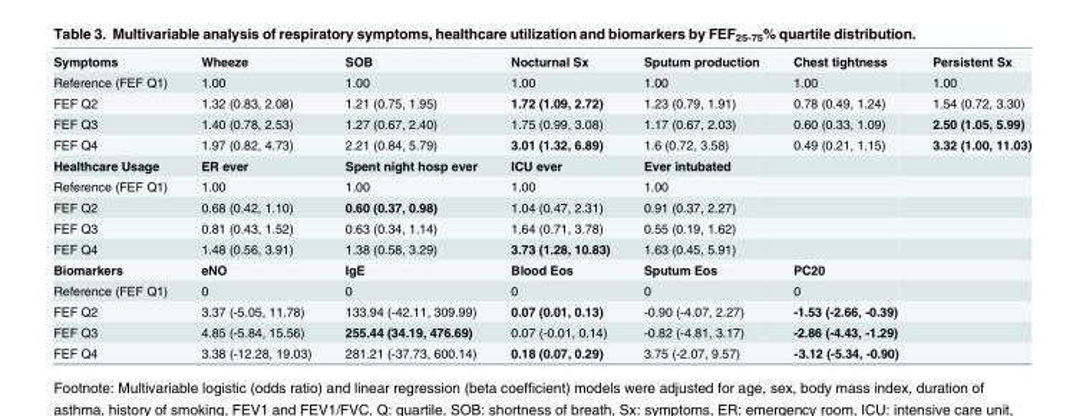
<table><tbody><tr><td>Symptoms</td><td>Wheeze</td><td>SOB</td><td>Nocturnal Sx</td><td>Sputum production</td><td>Chest tightness</td><td>Persistent Sx</td></tr><tr><td>Reference (FEF Q1)</td><td>1.00</td><td>1.00</td><td>1.00</td><td>1.00</td><td>1.00</td><td>1.00</td></tr><tr><td>FEF Q2</td><td>1.32 (0.83, 2.08)</td><td>1.21 (0.75, 1.95)</td><td>1.72 (1.09, 2.72)</td><td>1.23 (0.79, 1.91)</td><td>0.78 (0.49, 1.24)</td><td>1.54 (0.72, 3.30)</td></tr><tr><td>FEF Q3</td><td>1.40 (0.78, 2.53)</td><td>1.27 (0.67, 2.40)</td><td>1.75 (0.99, 3.08)</td><td>1.17 (0.67, 2.03)</td><td>0.60 (0.33, 1.09)</td><td>2.50 (1.05, 5.99)</td></tr><tr><td>FEF Q4</td><td>1.97 (0.82, 4.73)</td><td>2.21 (0.84, 5.79)</td><td>3.01 (1.32, 6.89)</td><td>1.6 (0.72, 3.58)</td><td>0.49 (0.21, 1.15)</td><td>3.32 (1.00, 11.03)</td></tr><tr><td>Healthcare Usage</td><td>ER ever</td><td>Spent night hosp ever</td><td>ICU ever</td><td>Ever intubated</td><td></td><td></td></tr><tr><td>Reference (FEF Q1)</td><td>1.00</td><td>1.00</td><td>1.00</td><td>1.00</td><td></td><td></td></tr><tr><td>FEF Q2</td><td>0.68 (0.42, 1.10)</td><td>0.60 (0.37, 0.98)</td><td>1.04 (0.47, 2.31)</td><td>0.91 (0.37, 2.27)</td><td></td><td></td></tr><tr><td>FEF Q3</td><td>0.81 (0.43, 1.52)</td><td>0.63 (0.34, 1.14)</td><td>1.64 (0.71, 3.78)</td><td>0.55 (0.19, 1.62)</td><td></td><td></td></tr><tr><td>FEF Q4</td><td>1.48 (0.56, 3.91)</td><td>1.38 (0.58, 3.29)</td><td>3.73 (1.28, 10.83)</td><td>1.63 (0.45, 5.91)</td><td></td><td></td></tr><tr><td>Biomarkers</td><td>eNO</td><td>IgE</td><td>Blood Eos</td><td>Sputum Eos</td><td>PC20</td><td></td></tr><tr><td>Reference (FEF Q1)</td><td>0</td><td>0</td><td>0</td><td>0</td><td>0</td><td></td></tr><tr><td>FEF Q2</td><td>3.37 (-5.05, 11.78)</td><td>133.94 (-42.11, 309.99)</td><td>0.07 (0.01, 0.13)</td><td>-0.90 (-4.07, 2.27)</td><td>-1.53 (-2.66, -0.39)</td><td></td></tr><tr><td>FEF Q3</td><td>4.85 (-5.84, 15.56)</td><td>255.44 (34.19, 476.69)</td><td>0.07 (-0.01, 0.14)</td><td>-0.82 (-4.81, 3.17)</td><td>-2.86 (-4.43, -1.29)</td><td></td></tr><tr><td>FEF Q4</td><td>3.38 (-12.28, 19.03)</td><td>281.21 (-37.73, 600.14)</td><td>0.18 (0.07, 0.29)</td><td>3.75 (-2.07, 9.57)</td><td>-3.12 (-5.34, -0.90)</td><td></td></tr></tbody></table>